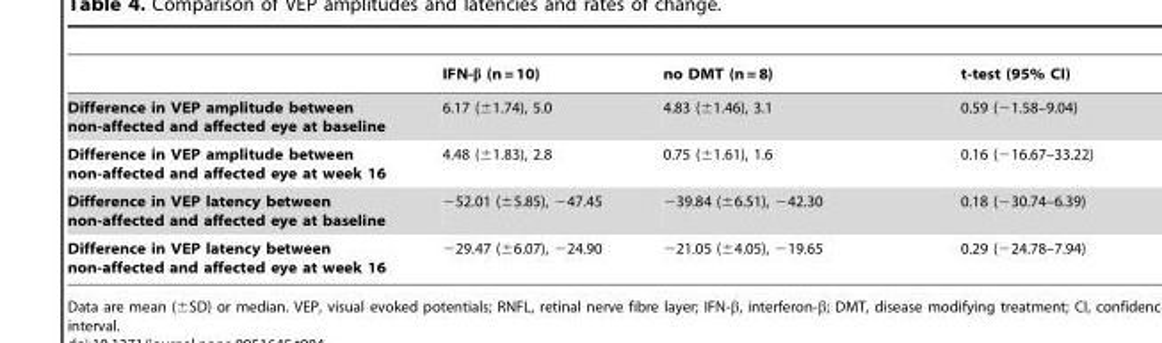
<table><thead><tr><td></td><td>IFN-β (n = 10)</td><td>no DMT (n = 8)</td><td>t-test (95% CI)</td></tr></thead><tbody><tr><td>Difference in VEP amplitude between non-affected and affected eye at baseline</td><td>6.17 (±1.74), 5.0</td><td>4.83 (±1.46), 3.1</td><td>0.59 (−1.58–9.04)</td></tr><tr><td>Difference in VEP amplitude between non-affected and affected eye at week 16</td><td>4.48 (±1.83), 2.8</td><td>0.75 (±1.61), 1.6</td><td>0.16 (−16.67–33.22)</td></tr><tr><td>Difference in VEP latency between non-affected and affected eye at baseline</td><td>−52.01 (±5.85), −47.45</td><td>−39.84 (±6.51), −42.30</td><td>0.18 (−30.74–6.39)</td></tr><tr><td>Difference in VEP latency between non-affected and affected eye at week 16</td><td>−29.47 (±6.07), −24.90</td><td>−21.05 (±4.05), −19.65</td><td>0.29 (−24.78–7.94)</td></tr></tbody></table>